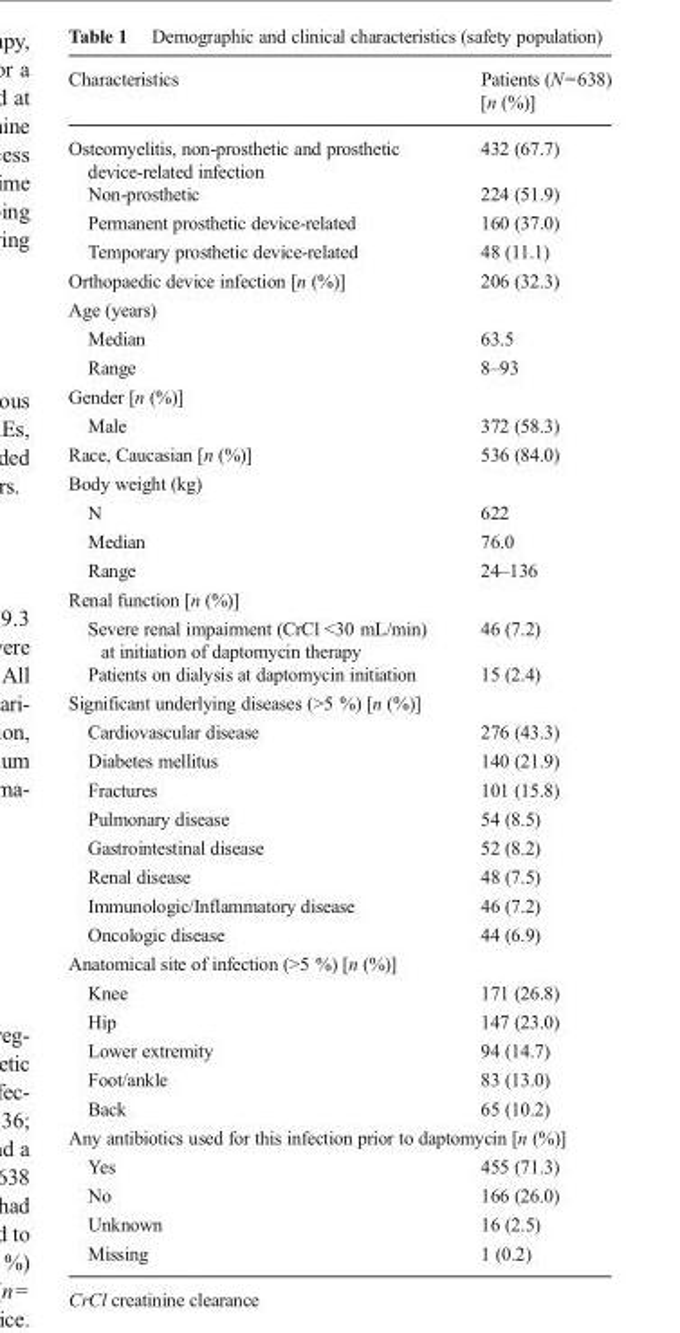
<table><thead><tr><td>Characteristics</td><td>Patients (N=638) [n (%)]</td></tr></thead><tbody><tr><td>Osteomyelitis, non-prosthetic and prosthetic device-related infection</td><td>432 (67.7)</td></tr><tr><td>Non-prosthetic</td><td>224 (51.9)</td></tr><tr><td>Permanent prosthetic device-related</td><td>160 (37.0)</td></tr><tr><td>Temporary prosthetic device-related</td><td>48 (11.1)</td></tr><tr><td>Orthopaedic device infection [n (%)]</td><td>206 (32.3)</td></tr><tr><td colspan="2">Age (years)</td></tr><tr><td>Median</td><td>63.5</td></tr><tr><td>Range</td><td>8–93</td></tr><tr><td colspan="2">Gender [n (%)]</td></tr><tr><td>Male</td><td>372 (58.3)</td></tr><tr><td>Race, Caucasian [n (%)]</td><td>536 (84.0)</td></tr><tr><td colspan="2">Body weight (kg)</td></tr><tr><td>N</td><td>622</td></tr><tr><td>Median</td><td>76.0</td></tr><tr><td>Range</td><td>24–136</td></tr><tr><td colspan="2">Renal function [n (%)]</td></tr><tr><td>Severe renal impairment (CrCl &lt;30 mL/min) at initiation of daptomycin therapy</td><td>46 (7.2)</td></tr><tr><td>Patients on dialysis at daptomycin initiation</td><td>15 (2.4)</td></tr><tr><td colspan="2">Significant underlying diseases (&gt;5 %) [n (%)]</td></tr><tr><td>Cardiovascular disease</td><td>276 (43.3)</td></tr><tr><td>Diabetes mellitus</td><td>140 (21.9)</td></tr><tr><td>Fractures</td><td>101 (15.8)</td></tr><tr><td>Pulmonary disease</td><td>54 (8.5)</td></tr><tr><td>Gastrointestinal disease</td><td>52 (8.2)</td></tr><tr><td>Renal disease</td><td>48 (7.5)</td></tr><tr><td>Immunologic/Inflammatory disease</td><td>46 (7.2)</td></tr><tr><td>Oncologic disease</td><td>44 (6.9)</td></tr><tr><td colspan="2">Anatomical site of infection (&gt;5 %) [n (%)]</td></tr><tr><td>Knee</td><td>171 (26.8)</td></tr><tr><td>Hip</td><td>147 (23.0)</td></tr><tr><td>Lower extremity</td><td>94 (14.7)</td></tr><tr><td>Foot/ankle</td><td>83 (13.0)</td></tr><tr><td>Back</td><td>65 (10.2)</td></tr><tr><td colspan="2">Any antibiotics used for this infection prior to daptomycin [n (%)]</td></tr><tr><td>Yes</td><td>455 (71.3)</td></tr><tr><td>No</td><td>166 (26.0)</td></tr><tr><td>Unknown</td><td>16 (2.5)</td></tr><tr><td>Missing</td><td>1 (0.2)</td></tr></tbody></table>